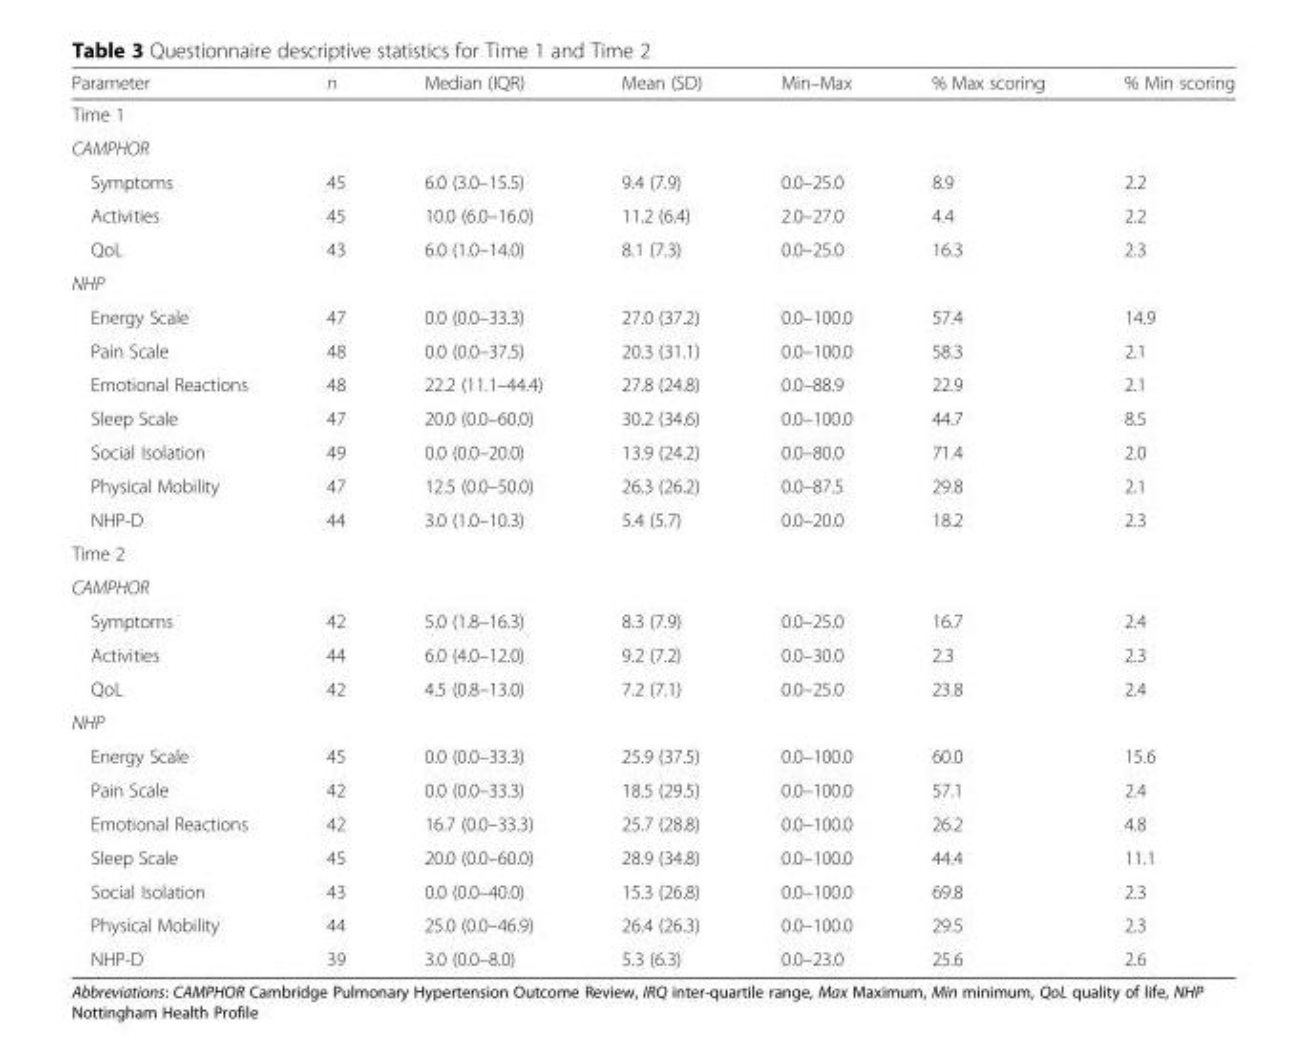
<table><thead><tr><td>Parameter</td><td>n</td><td>Median (IQR)</td><td>Mean (SD)</td><td>Min–Max</td><td>% Max scoring</td><td>% Min scoring</td></tr></thead><tbody><tr><td colspan="7">Time 1</td></tr><tr><td colspan="7">CAMPHOR</td></tr><tr><td>Symptoms</td><td>45</td><td>6.0 (3.0–15.5)</td><td>9.4 (7.9)</td><td>0.0–25.0</td><td>8.9</td><td>2.2</td></tr><tr><td>Activities</td><td>45</td><td>10.0 (6.0–16.0)</td><td>11.2 (6.4)</td><td>2.0–27.0</td><td>4.4</td><td>2.2</td></tr><tr><td>QoL</td><td>43</td><td>6.0 (1.0–14.0)</td><td>8.1 (7.3)</td><td>0.0–25.0</td><td>16.3</td><td>2.3</td></tr><tr><td colspan="7">NHP</td></tr><tr><td>Energy Scale</td><td>47</td><td>0.0 (0.0–33.3)</td><td>27.0 (37.2)</td><td>0.0–100.0</td><td>57.4</td><td>14.9</td></tr><tr><td>Pain Scale</td><td>48</td><td>0.0 (0.0–37.5)</td><td>20.3 (31.1)</td><td>0.0–100.0</td><td>58.3</td><td>2.1</td></tr><tr><td>Emotional Reactions</td><td>48</td><td>22.2 (11.1–44.4)</td><td>27.8 (24.8)</td><td>0.0–88.9</td><td>22.9</td><td>2.1</td></tr><tr><td>Sleep Scale</td><td>47</td><td>20.0 (0.0–60.0)</td><td>30.2 (34.6)</td><td>0.0–100.0</td><td>44.7</td><td>8.5</td></tr><tr><td>Social Isolation</td><td>49</td><td>0.0 (0.0–20.0)</td><td>13.9 (24.2)</td><td>0.0–80.0</td><td>71.4</td><td>2.0</td></tr><tr><td>Physical Mobility</td><td>47</td><td>12.5 (0.0–50.0)</td><td>26.3 (26.2)</td><td>0.0–87.5</td><td>29.8</td><td>2.1</td></tr><tr><td>NHP-D</td><td>44</td><td>3.0 (1.0–10.3)</td><td>5.4 (5.7)</td><td>0.0–20.0</td><td>18.2</td><td>2.3</td></tr><tr><td colspan="7">Time 2</td></tr><tr><td colspan="7">CAMPHOR</td></tr><tr><td>Symptoms</td><td>42</td><td>5.0 (1.8–16.3)</td><td>8.3 (7.9)</td><td>0.0–25.0</td><td>16.7</td><td>2.4</td></tr><tr><td>Activities</td><td>44</td><td>6.0 (4.0–12.0)</td><td>9.2 (7.2)</td><td>0.0–30.0</td><td>2.3</td><td>2.3</td></tr><tr><td>QoL</td><td>42</td><td>4.5 (0.8–13.0)</td><td>7.2 (7.1)</td><td>0.0–25.0</td><td>23.8</td><td>2.4</td></tr><tr><td colspan="7">NHP</td></tr><tr><td>Energy Scale</td><td>45</td><td>0.0 (0.0–33.3)</td><td>25.9 (37.5)</td><td>0.0–100.0</td><td>60.0</td><td>15.6</td></tr><tr><td>Pain Scale</td><td>42</td><td>0.0 (0.0–33.3)</td><td>18.5 (29.5)</td><td>0.0–100.0</td><td>57.1</td><td>2.4</td></tr><tr><td>Emotional Reactions</td><td>42</td><td>16.7 (0.0–33.3)</td><td>25.7 (28.8)</td><td>0.0–100.0</td><td>26.2</td><td>4.8</td></tr><tr><td>Sleep Scale</td><td>45</td><td>20.0 (0.0–60.0)</td><td>28.9 (34.8)</td><td>0.0–100.0</td><td>44.4</td><td>11.1</td></tr><tr><td>Social Isolation</td><td>43</td><td>0.0 (0.0–40.0)</td><td>15.3 (26.8)</td><td>0.0–100.0</td><td>69.8</td><td>2.3</td></tr><tr><td>Physical Mobility</td><td>44</td><td>25.0 (0.0–46.9)</td><td>26.4 (26.3)</td><td>0.0–100.0</td><td>29.5</td><td>2.3</td></tr><tr><td>NHP-D</td><td>39</td><td>3.0 (0.0–8.0)</td><td>5.3 (6.3)</td><td>0.0–23.0</td><td>25.6</td><td>2.6</td></tr></tbody></table>